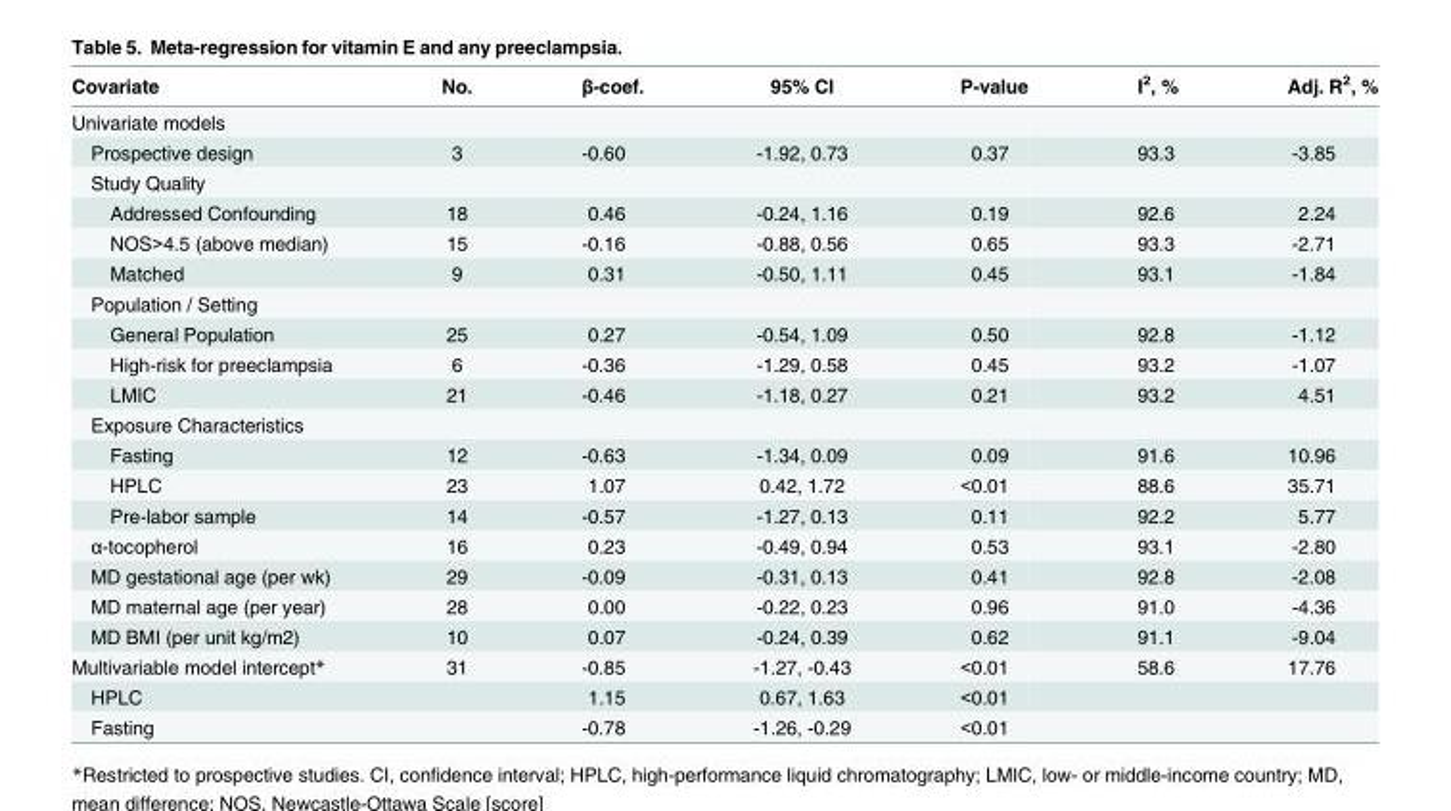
<table><thead><tr><td>Covariate</td><td>No.</td><td>β-coef.</td><td>95% CI</td><td>P-value</td><td>I<sup>2</sup>, %</td><td>Adj. R<sup>2</sup>, %</td></tr></thead><tbody><tr><td colspan="7">Univariate models</td></tr><tr><td>Prospective design</td><td>3</td><td>-0.60</td><td>-1.92, 0.73</td><td>0.37</td><td>93.3</td><td>-3.85</td></tr><tr><td colspan="7">Study Quality</td></tr><tr><td>Addressed Confounding</td><td>18</td><td>0.46</td><td>-0.24, 1.16</td><td>0.19</td><td>92.6</td><td>2.24</td></tr><tr><td>NOS&gt;4.5 (above median)</td><td>15</td><td>-0.16</td><td>-0.88, 0.56</td><td>0.65</td><td>93.3</td><td>-2.71</td></tr><tr><td>Matched</td><td>9</td><td>0.31</td><td>-0.50, 1.11</td><td>0.45</td><td>93.1</td><td>-1.84</td></tr><tr><td colspan="7">Population / Setting</td></tr><tr><td>General Population</td><td>25</td><td>0.27</td><td>-0.54, 1.09</td><td>0.50</td><td>92.8</td><td>-1.12</td></tr><tr><td>High-risk for preeclampsia</td><td>6</td><td>-0.36</td><td>-1.29, 0.58</td><td>0.45</td><td>93.2</td><td>-1.07</td></tr><tr><td>LMIC</td><td>21</td><td>-0.46</td><td>-1.18, 0.27</td><td>0.21</td><td>93.2</td><td>4.51</td></tr><tr><td colspan="7">Exposure Characteristics</td></tr><tr><td>Fasting</td><td>12</td><td>-0.63</td><td>-1.34, 0.09</td><td>0.09</td><td>91.6</td><td>10.96</td></tr><tr><td>HPLC</td><td>23</td><td>1.07</td><td>0.42, 1.72</td><td>&lt;0.01</td><td>88.6</td><td>35.71</td></tr><tr><td>Pre-labor sample</td><td>14</td><td>-0.57</td><td>-1.27, 0.13</td><td>0.11</td><td>92.2</td><td>5.77</td></tr><tr><td>α-tocopherol</td><td>16</td><td>0.23</td><td>-0.49, 0.94</td><td>0.53</td><td>93.1</td><td>-2.80</td></tr><tr><td>MD gestational age (per wk)</td><td>29</td><td>-0.09</td><td>-0.31, 0.13</td><td>0.41</td><td>92.8</td><td>-2.08</td></tr><tr><td>MD maternal age (per year)</td><td>28</td><td>0.00</td><td>-0.22, 0.23</td><td>0.96</td><td>91.0</td><td>-4.36</td></tr><tr><td>MD BMI (per unit kg/m2)</td><td>10</td><td>0.07</td><td>-0.24, 0.39</td><td>0.62</td><td>91.1</td><td>-9.04</td></tr><tr><td>Multivariable model intercept*</td><td>31</td><td>-0.85</td><td>-1.27, -0.43</td><td>&lt;0.01</td><td>58.6</td><td>17.76</td></tr><tr><td>HPLC</td><td></td><td>1.15</td><td>0.67, 1.63</td><td>&lt;0.01</td><td></td><td></td></tr><tr><td>Fasting</td><td></td><td>-0.78</td><td>-1.26, -0.29</td><td>&lt;0.01</td><td></td><td></td></tr></tbody></table>